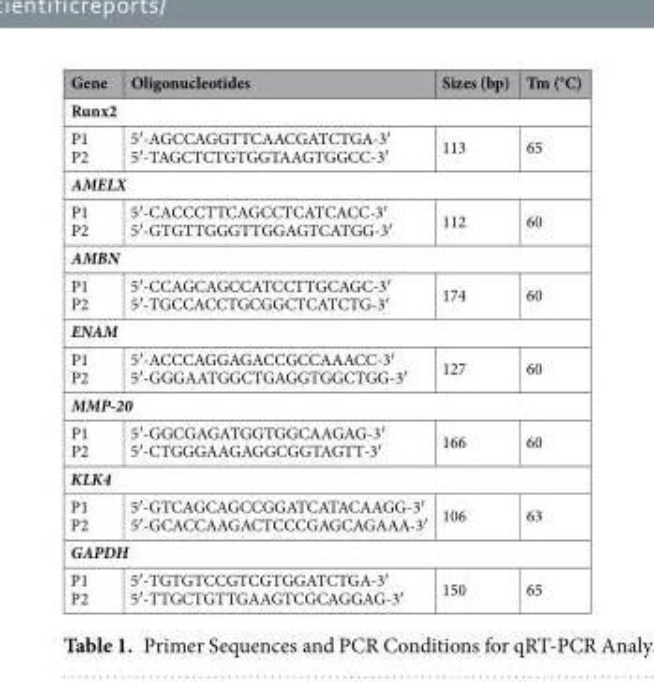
<table><thead><tr><td>Gene</td><td>Oligonucleotides</td><td>Sizes (bp)</td><td>Tm (°C)</td></tr></thead><tbody><tr><td colspan="4">Runx2</td></tr><tr><td>P1 P2</td><td>5′-AGCCAGGTTCAACGATCTGA-3′ 5′-TAGCTCTGTGGTAAGTGGCC-3′</td><td>113</td><td>65</td></tr><tr><td colspan="4">AMELX</td></tr><tr><td>P1 P2</td><td>5′-CACCCTTCAGCCTCATCACC-3′ 5′-GTGTTGGGTTGGAGTCATGG-3′</td><td>112</td><td>60</td></tr><tr><td colspan="4">AMBN</td></tr><tr><td>P1 P2</td><td>5′-CCAGCAGCCATCCTTGCAGC-3′ 5′-TGCCACCTGCGGCTCATCTG-3′</td><td>174</td><td>60</td></tr><tr><td colspan="4">ENAM</td></tr><tr><td>P1 P2</td><td>5′-ACCCAGGAGACCGCCAAACC-3′ 5′-GGGAATGGCTGAGGTGGCTGG-3′</td><td>127</td><td>60</td></tr><tr><td colspan="4">MMP-20</td></tr><tr><td>P1 P2</td><td>5′-GGCGAGATGGTGGCAAGAG-3′ 5′-CTGGGAAGAGGCGGTAGTT-3′</td><td>166</td><td>60</td></tr><tr><td colspan="4">KLK4</td></tr><tr><td>P1 P2</td><td>5′-GTCAGCAGCCGGATCATACAAGG-3′ 5′-GCACCAAGACTCCCGAGCAGAAA-3′</td><td>106</td><td>63</td></tr><tr><td colspan="4">GAPDH</td></tr><tr><td>P1 P2</td><td>5′-TGTGTCCGTCGTGGATCTGA-3′ 5′-TTGCTGTTGAAGTCGCAGGAG-3′</td><td>150</td><td>65</td></tr></tbody></table>